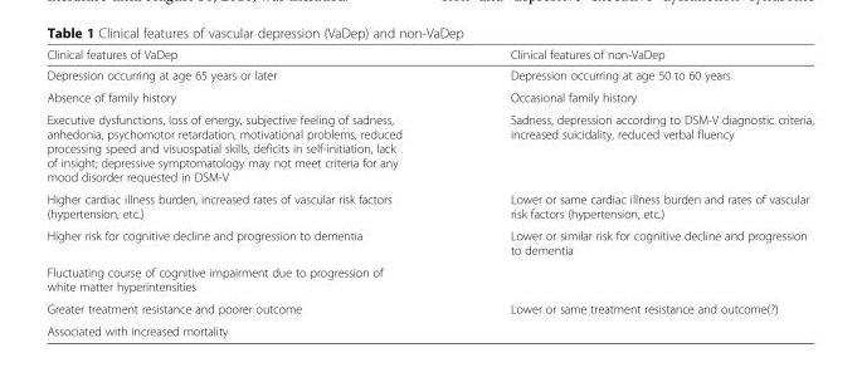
<table><thead><tr><td>Clinical features of VaDep</td><td>Clinical features of non-VaDep</td></tr></thead><tbody><tr><td>Depression occurring at age 65 years or later</td><td>Depression occurring at age 50 to 60 years</td></tr><tr><td>Absence of family history</td><td>Occasional family history</td></tr><tr><td>Executive dysfunctions, loss of energy, subjective feeling of sadness, anhedonia, psychomotor retardation, motivational problems, reduced processing speed and visuospatial skills, deficits in self-initiation, lack of insight; depressive symptomatology may not meet criteria for any mood disorder requested in DSM-V</td><td>Sadness, depression according to DSM-V diagnostic criteria, increased suicidality, reduced verbal fluency</td></tr><tr><td>Higher cardiac illness burden, increased rates of vascular risk factors (hypertension, etc.)</td><td>Lower or same cardiac illness burden and rates of vascular risk factors (hypertension, etc.)</td></tr><tr><td>Higher risk for cognitive decline and progression to dementia</td><td>Lower or similar risk for cognitive decline and progression to dementia</td></tr><tr><td colspan="2">Fluctuating course of cognitive impairment due to progression of white matter hyperintensities</td></tr><tr><td>Greater treatment resistance and poorer outcome</td><td>Lower or same treatment resistance and outcome(?)</td></tr><tr><td>Associated with increased mortality</td><td></td></tr></tbody></table>